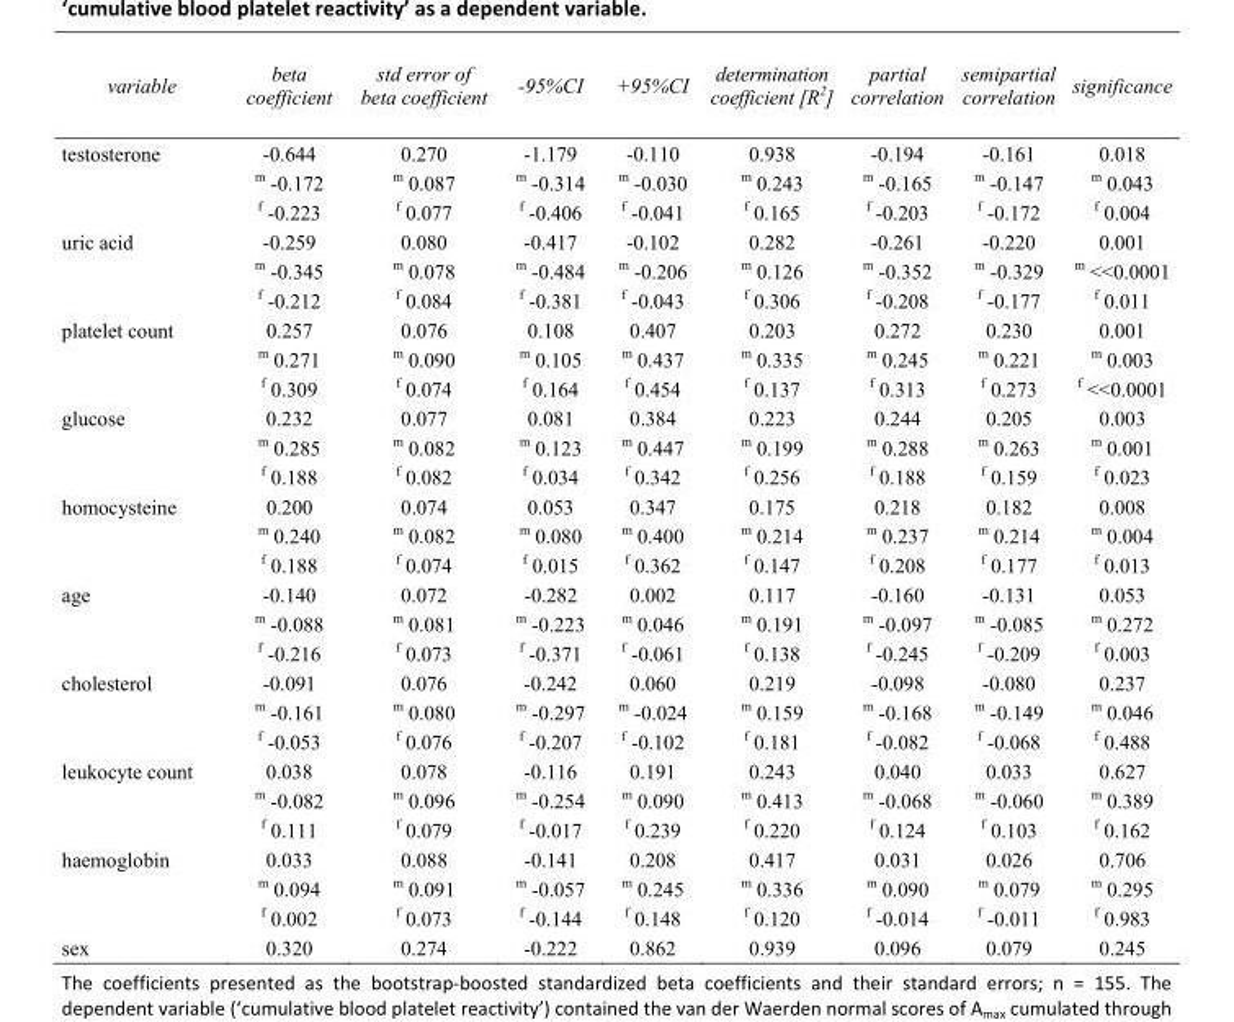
<table><tbody><tr><td>variable</td><td>beta coefficient</td><td>std error of beta coefficient</td><td>-95%CI</td><td>+95%CI</td><td>determination coefficient [R<sup>2</sup>]</td><td>partial correlation</td><td>semipartial correlation</td><td>significance</td></tr><tr><td rowspan="3">testosterone</td><td>-0.644</td><td>0.270</td><td>-1.179</td><td>-0.110</td><td>0.938</td><td>-0.194</td><td>-0.161</td><td>0.018</td></tr><tr><td><sup>m</sup> -0.172</td><td><sup>m</sup> 0.087</td><td><sup>m</sup> -0.314</td><td><sup>m</sup> -0.030</td><td><sup>m</sup> 0.243</td><td><sup>m</sup> -0.165</td><td><sup>m</sup> -0.147</td><td><sup>m</sup> 0.043</td></tr><tr><td><sup>f</sup> -0.223</td><td><sup>f</sup> 0.077</td><td><sup>f</sup> -0.406</td><td><sup>f</sup> -0.041</td><td><sup>f</sup> 0.165</td><td><sup>f</sup> -0.203</td><td><sup>f</sup> -0.172</td><td><sup>f</sup> 0.004</td></tr><tr><td rowspan="3">uric acid</td><td>-0.259</td><td>0.080</td><td>-0.417</td><td>-0.102</td><td>0.282</td><td>-0.261</td><td>-0.220</td><td>0.001</td></tr><tr><td><sup>m</sup> -0.345</td><td><sup>m</sup> 0.078</td><td><sup>m</sup> -0.484</td><td><sup>m</sup> -0.206</td><td><sup>m</sup> 0.126</td><td><sup>m</sup> -0.352</td><td><sup>m</sup> -0.329</td><td><sup>m</sup> &lt;&lt;0.0001</td></tr><tr><td><sup>f</sup> -0.212</td><td><sup>f</sup> 0.084</td><td><sup>f</sup> -0.381</td><td><sup>f</sup> -0.043</td><td><sup>f</sup> 0.306</td><td><sup>f</sup> -0.208</td><td><sup>f</sup> -0.177</td><td><sup>f</sup> 0.011</td></tr><tr><td rowspan="3">platelet count</td><td>0.257</td><td>0.076</td><td>0.108</td><td>0.407</td><td>0.203</td><td>0.272</td><td>0.230</td><td>0.001</td></tr><tr><td><sup>m</sup> 0.271</td><td><sup>m</sup> 0.090</td><td><sup>m</sup> 0.105</td><td><sup>m</sup> 0.437</td><td><sup>m</sup> 0.335</td><td><sup>m</sup> 0.245</td><td><sup>m</sup> 0.221</td><td><sup>m</sup> 0.003</td></tr><tr><td><sup>f</sup> 0.309</td><td><sup>f</sup> 0.074</td><td><sup>f</sup> 0.164</td><td><sup>f</sup> 0.454</td><td><sup>f</sup> 0.137</td><td><sup>f</sup> 0.313</td><td><sup>f</sup> 0.273</td><td><sup>f</sup> &lt;&lt;0.0001</td></tr><tr><td rowspan="3">glucose</td><td>0.232</td><td>0.077</td><td>0.081</td><td>0.384</td><td>0.223</td><td>0.244</td><td>0.205</td><td>0.003</td></tr><tr><td><sup>m</sup> 0.285</td><td><sup>m</sup> 0.082</td><td><sup>m</sup> 0.123</td><td><sup>m</sup> 0.447</td><td><sup>m</sup> 0.199</td><td><sup>m</sup> 0.288</td><td><sup>m</sup> 0.263</td><td><sup>m</sup> 0.001</td></tr><tr><td><sup>f</sup> 0.188</td><td><sup>f</sup> 0.082</td><td><sup>f</sup> 0.034</td><td><sup>f</sup> 0.342</td><td><sup>f</sup> 0.256</td><td><sup>f</sup> 0.188</td><td><sup>f</sup> 0.159</td><td><sup>f</sup> 0.023</td></tr><tr><td rowspan="3">homocysteine</td><td>0.200</td><td>0.074</td><td>0.053</td><td>0.347</td><td>0.175</td><td>0.218</td><td>0.182</td><td>0.008</td></tr><tr><td><sup>m</sup> 0.240</td><td><sup>m</sup> 0.082</td><td><sup>m</sup> 0.080</td><td><sup>m</sup> 0.400</td><td><sup>m</sup> 0.214</td><td><sup>m</sup> 0.237</td><td><sup>m</sup> 0.214</td><td><sup>m</sup> 0.004</td></tr><tr><td><sup>f</sup> 0.188</td><td><sup>f</sup> 0.074</td><td><sup>f</sup> 0.015</td><td><sup>f</sup> 0.362</td><td><sup>f</sup> 0.147</td><td><sup>f</sup> 0.208</td><td><sup>f</sup> 0.177</td><td><sup>f</sup> 0.013</td></tr><tr><td rowspan="3">age</td><td>-0.140</td><td>0.072</td><td>-0.282</td><td>0.002</td><td>0.117</td><td>-0.160</td><td>-0.131</td><td>0.053</td></tr><tr><td><sup>m</sup> -0.088</td><td><sup>m</sup> 0.081</td><td><sup>m</sup> -0.223</td><td><sup>m</sup> 0.046</td><td><sup>m</sup> 0.191</td><td><sup>m</sup> -0.097</td><td><sup>m</sup> -0.085</td><td><sup>m</sup> 0.272</td></tr><tr><td><sup>f</sup> -0.216</td><td><sup>f</sup> 0.073</td><td><sup>f</sup> -0.371</td><td><sup>f</sup> -0.061</td><td><sup>f</sup> 0.138</td><td><sup>f</sup> -0.245</td><td><sup>f</sup> -0.209</td><td><sup>f</sup> 0.003</td></tr><tr><td rowspan="3">cholesterol</td><td>-0.091</td><td>0.076</td><td>-0.242</td><td>0.060</td><td>0.219</td><td>-0.098</td><td>-0.080</td><td>0.237</td></tr><tr><td><sup>m</sup> -0.161</td><td><sup>m</sup> 0.080</td><td><sup>m</sup> -0.297</td><td><sup>m</sup> -0.024</td><td><sup>m</sup> 0.159</td><td><sup>m</sup> -0.168</td><td><sup>m</sup> -0.149</td><td><sup>m</sup> 0.046</td></tr><tr><td><sup>f</sup> -0.053</td><td><sup>f</sup> 0.076</td><td><sup>f</sup> -0.207</td><td><sup>f</sup> -0.102</td><td><sup>f</sup> 0.181</td><td><sup>f</sup> -0.082</td><td><sup>f</sup> -0.068</td><td><sup>f</sup> 0.488</td></tr><tr><td rowspan="3">leukocyte count</td><td>0.038</td><td>0.078</td><td>-0.116</td><td>0.191</td><td>0.243</td><td>0.040</td><td>0.033</td><td>0.627</td></tr><tr><td><sup>m</sup> -0.082</td><td><sup>m</sup> 0.096</td><td><sup>m</sup> -0.254</td><td><sup>m</sup> 0.090</td><td><sup>m</sup> 0.413</td><td><sup>m</sup> -0.068</td><td><sup>m</sup> -0.060</td><td><sup>m</sup> 0.389</td></tr><tr><td><sup>f</sup> 0.111</td><td><sup>f</sup> 0.079</td><td><sup>f</sup> -0.017</td><td><sup>f</sup> 0.239</td><td><sup>f</sup> 0.220</td><td><sup>f</sup> 0.124</td><td><sup>f</sup> 0.103</td><td><sup>f</sup> 0.162</td></tr><tr><td rowspan="3">haemoglobin</td><td>0.033</td><td>0.088</td><td>-0.141</td><td>0.208</td><td>0.417</td><td>0.031</td><td>0.026</td><td>0.706</td></tr><tr><td><sup>m</sup> 0.094</td><td><sup>m</sup> 0.091</td><td><sup>m</sup> -0.057</td><td><sup>m</sup> 0.245</td><td><sup>m</sup> 0.336</td><td><sup>m</sup> 0.090</td><td><sup>m</sup> 0.079</td><td><sup>m</sup> 0.295</td></tr><tr><td><sup>f</sup> 0.002</td><td><sup>f</sup> 0.073</td><td><sup>f</sup> -0.144</td><td><sup>f</sup> 0.148</td><td><sup>f</sup> 0.120</td><td><sup>f</sup> -0.014</td><td><sup>f</sup> -0.011</td><td><sup>f</sup> 0.983</td></tr><tr><td>sex</td><td>0.320</td><td>0.274</td><td>-0.222</td><td>0.862</td><td>0.939</td><td>0.096</td><td>0.079</td><td>0.245</td></tr></tbody></table>